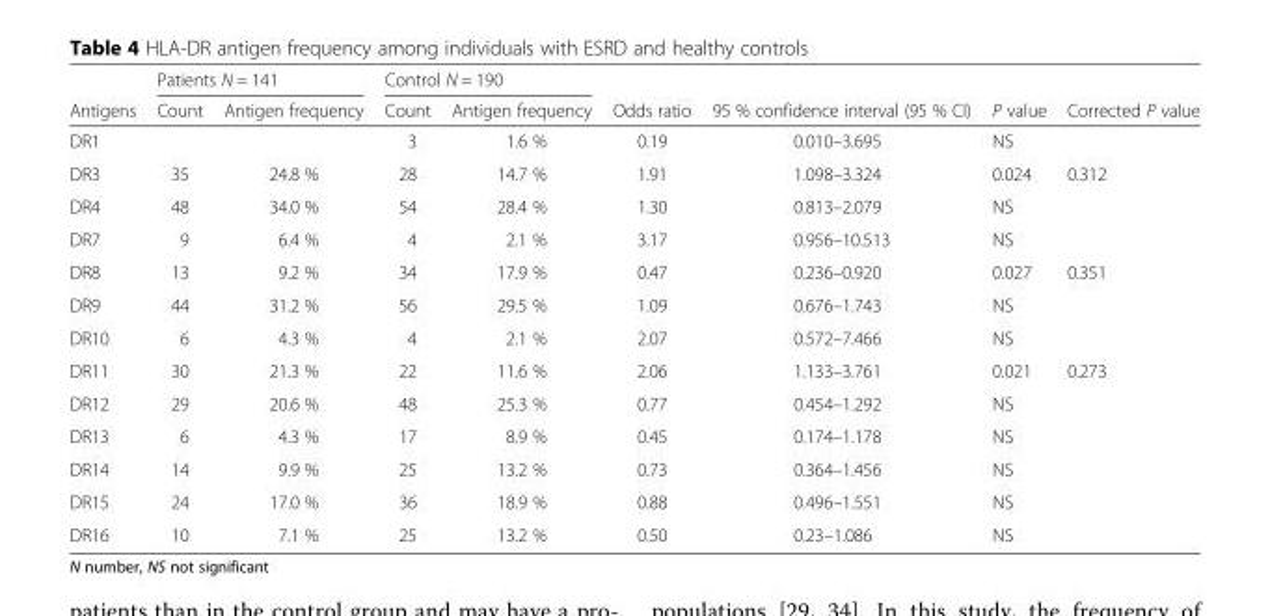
<table><thead><tr><td rowspan="2">Antigens</td><td colspan="2">Patients N = 141</td><td colspan="2">Control N = 190</td><td rowspan="2">Odds ratio</td><td rowspan="2">95 % confidence interval (95 % CI)</td><td rowspan="2">P value</td><td rowspan="2">Corrected P value</td></tr><tr><td>Count</td><td>Antigen frequency</td><td>Count</td><td>Antigen frequency</td></tr></thead><tbody><tr><td>DR1</td><td></td><td></td><td>3</td><td>1.6 %</td><td>0.19</td><td>0.010–3.695</td><td>NS</td><td></td></tr><tr><td>DR3</td><td>35</td><td>24.8 %</td><td>28</td><td>14.7 %</td><td>1.91</td><td>1.098–3.324</td><td>0.024</td><td>0.312</td></tr><tr><td>DR4</td><td>48</td><td>34.0 %</td><td>54</td><td>28.4 %</td><td>1.30</td><td>0.813–2.079</td><td>NS</td><td></td></tr><tr><td>DR7</td><td>9</td><td>6.4 %</td><td>4</td><td>2.1 %</td><td>3.17</td><td>0.956–10.513</td><td>NS</td><td></td></tr><tr><td>DR8</td><td>13</td><td>9.2 %</td><td>34</td><td>17.9 %</td><td>0.47</td><td>0.236–0.920</td><td>0.027</td><td>0.351</td></tr><tr><td>DR9</td><td>44</td><td>31.2 %</td><td>56</td><td>29.5 %</td><td>1.09</td><td>0.676–1.743</td><td>NS</td><td></td></tr><tr><td>DR10</td><td>6</td><td>4.3 %</td><td>4</td><td>2.1 %</td><td>2.07</td><td>0.572–7.466</td><td>NS</td><td></td></tr><tr><td>DR11</td><td>30</td><td>21.3 %</td><td>22</td><td>11.6 %</td><td>2.06</td><td>1.133–3.761</td><td>0.021</td><td>0.273</td></tr><tr><td>DR12</td><td>29</td><td>20.6 %</td><td>48</td><td>25.3 %</td><td>0.77</td><td>0.454–1.292</td><td>NS</td><td></td></tr><tr><td>DR13</td><td>6</td><td>4.3 %</td><td>17</td><td>8.9 %</td><td>0.45</td><td>0.174–1.178</td><td>NS</td><td></td></tr><tr><td>DR14</td><td>14</td><td>9.9 %</td><td>25</td><td>13.2 %</td><td>0.73</td><td>0.364–1.456</td><td>NS</td><td></td></tr><tr><td>DR15</td><td>24</td><td>17.0 %</td><td>36</td><td>18.9 %</td><td>0.88</td><td>0.496–1.551</td><td>NS</td><td></td></tr><tr><td>DR16</td><td>10</td><td>7.1 %</td><td>25</td><td>13.2 %</td><td>0.50</td><td>0.23–1.086</td><td>NS</td><td></td></tr></tbody></table>